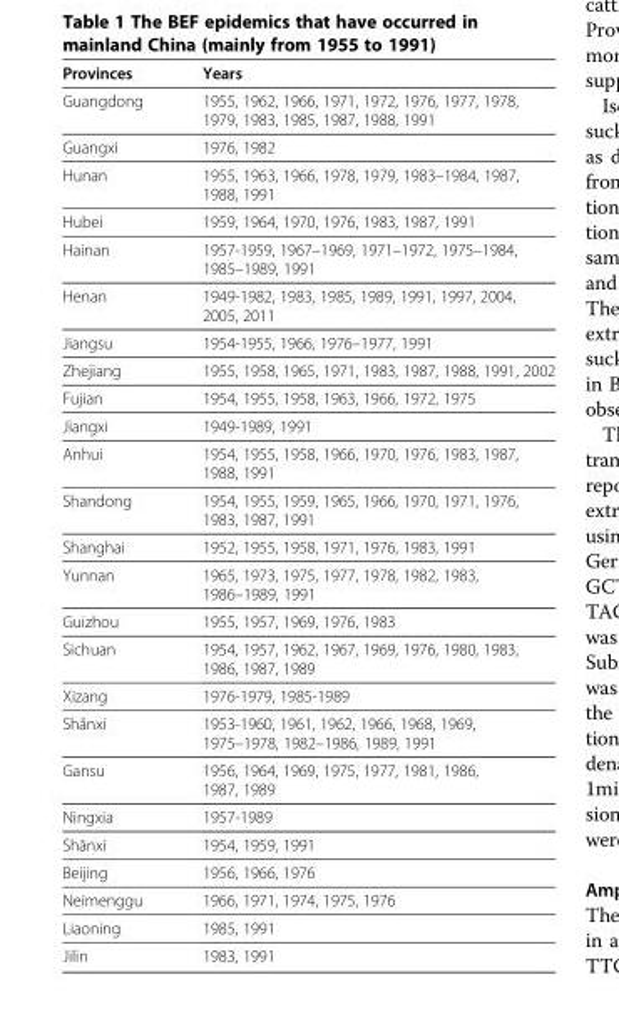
<table><thead><tr><td>Provinces</td><td>Years</td></tr></thead><tbody><tr><td>Guangdong</td><td>1955, 1962, 1966, 1971, 1972, 1976, 1977, 1978, 1979, 1983, 1985, 1987, 1988, 1991</td></tr><tr><td>Guangxi</td><td>1976, 1982</td></tr><tr><td>Hunan</td><td>1955, 1963, 1966, 1978, 1979, 1983–1984, 1987, 1988, 1991</td></tr><tr><td>Hubei</td><td>1959, 1964, 1970, 1976, 1983, 1987, 1991</td></tr><tr><td>Hainan</td><td>1957-1959, 1967–1969, 1971–1972, 1975–1984, 1985–1989, 1991</td></tr><tr><td>Henan</td><td>1949-1982, 1983, 1985, 1989, 1991, 1997, 2004, 2005, 2011</td></tr><tr><td>Jiangsu</td><td>1954-1955, 1966, 1976–1977, 1991</td></tr><tr><td>Zhejiang</td><td>1955, 1958, 1965, 1971, 1983, 1987, 1988, 1991, 2002</td></tr><tr><td>Fujian</td><td>1954, 1955, 1958, 1963, 1966, 1972, 1975</td></tr><tr><td>Jiangxi</td><td>1949-1989, 1991</td></tr><tr><td>Anhui</td><td>1954, 1955, 1958, 1966, 1970, 1976, 1983, 1987, 1988, 1991</td></tr><tr><td>Shandong</td><td>1954, 1955, 1959, 1965, 1966, 1970, 1971, 1976, 1983, 1987, 1991</td></tr><tr><td>Shanghai</td><td>1952, 1955, 1958, 1971, 1976, 1983, 1991</td></tr><tr><td>Yunnan</td><td>1965, 1973, 1975, 1977, 1978, 1982, 1983, 1986–1989, 1991</td></tr><tr><td>Guizhou</td><td>1955, 1957, 1969, 1976, 1983</td></tr><tr><td>Sichuan</td><td>1954, 1957, 1962, 1967, 1969, 1976, 1980, 1983, 1986, 1987, 1989</td></tr><tr><td>Xizang</td><td>1976-1979, 1985-1989</td></tr><tr><td>Shǎnxi</td><td>1953-1960, 1961, 1962, 1966, 1968, 1969, 1975–1978, 1982–1986, 1989, 1991</td></tr><tr><td>Gansu</td><td>1956, 1964, 1969, 1975, 1977, 1981, 1986, 1987, 1989</td></tr><tr><td>Ningxia</td><td>1957-1989</td></tr><tr><td>Shānxi</td><td>1954, 1959, 1991</td></tr><tr><td>Beijing</td><td>1956, 1966, 1976</td></tr><tr><td>Neimenggu</td><td>1966, 1971, 1974, 1975, 1976</td></tr><tr><td>Liaoning</td><td>1985, 1991</td></tr><tr><td>Jilin</td><td>1983, 1991</td></tr></tbody></table>